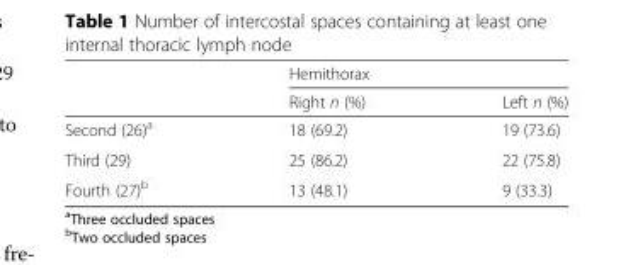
<table><thead><tr><td rowspan="2"></td><td colspan="2">Hemithorax</td></tr><tr><td>Right n (%)</td><td>Left n (%)</td></tr></thead><tbody><tr><td>Second (26)<sup>a</sup></td><td>18 (69.2)</td><td>19 (73.6)</td></tr><tr><td>Third (29)</td><td>25 (86.2)</td><td>22 (75.8)</td></tr><tr><td>Fourth (27)<sup>b</sup></td><td>13 (48.1)</td><td>9 (33.3)</td></tr></tbody></table>